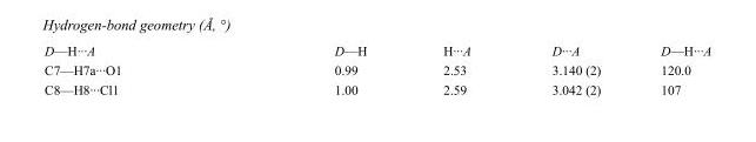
<table><tbody><tr><td>D—H···A</td><td>D—H</td><td>H···A</td><td>D···A</td><td>D—H···A</td></tr><tr><td>C7—H7a···O1</td><td>0.99</td><td>2.53</td><td>3.140 (2)</td><td>120.0</td></tr><tr><td>C8—H8···Cl1</td><td>1.00</td><td>2.59</td><td>3.042 (2)</td><td>107</td></tr></tbody></table>